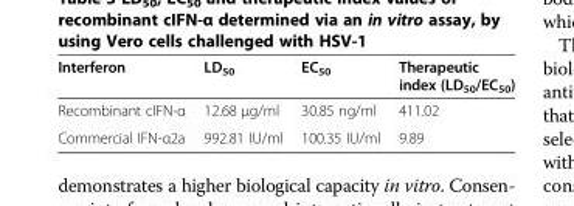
<table><thead><tr><td>Interferon</td><td>LD<sub>50</sub></td><td>EC<sub>50</sub></td><td>Therapeutic index (LD<sub>50</sub>/EC<sub>50</sub>)</td></tr></thead><tbody><tr><td>Recombinant cIFN-α</td><td>12.68 μg/ml</td><td>30.85 ng/ml</td><td>411.02</td></tr><tr><td>Commercial IFN-α2a</td><td>992.81 IU/ml</td><td>100.35 IU/ml</td><td>9.89</td></tr></tbody></table>